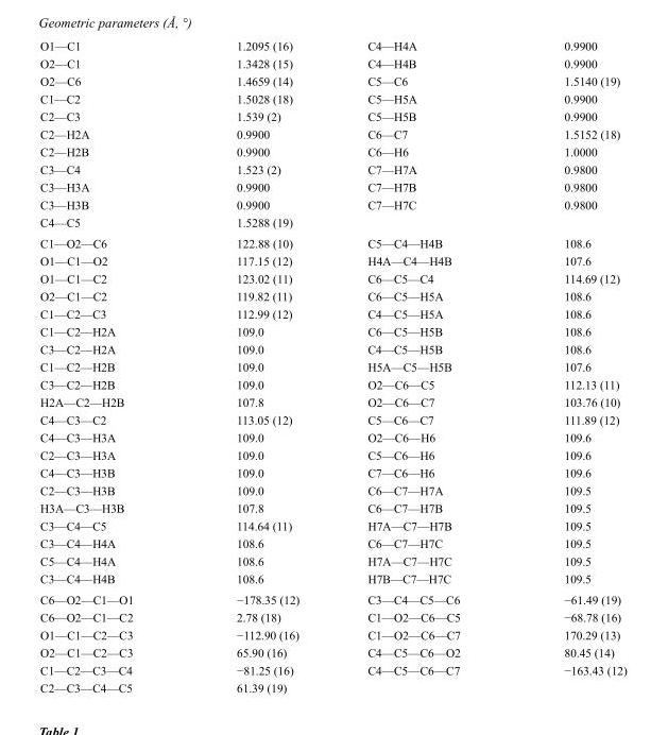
<table><tbody><tr><td>O1—C1</td><td>1.2095 (16)</td><td>C4—H4A</td><td>0.9900</td></tr><tr><td>O2—C1</td><td>1.3428 (15)</td><td>C4—H4B</td><td>0.9900</td></tr><tr><td>O2—C6</td><td>1.4659 (14)</td><td>C5—C6</td><td>1.5140 (19)</td></tr><tr><td>C1—C2</td><td>1.5028 (18)</td><td>C5—H5A</td><td>0.9900</td></tr><tr><td>C2—C3</td><td>1.539 (2)</td><td>C5—H5B</td><td>0.9900</td></tr><tr><td>C2—H2A</td><td>0.9900</td><td>C6—C7</td><td>1.5152 (18)</td></tr><tr><td>C2—H2B</td><td>0.9900</td><td>C6—H6</td><td>1.0000</td></tr><tr><td>C3—C4</td><td>1.523 (2)</td><td>C7—H7A</td><td>0.9800</td></tr><tr><td>C3—H3A</td><td>0.9900</td><td>C7—H7B</td><td>0.9800</td></tr><tr><td>C3—H3B</td><td>0.9900</td><td>C7—H7C</td><td>0.9800</td></tr><tr><td>C4—C5</td><td>1.5288 (19)</td><td></td><td></td></tr><tr><td>C1—O2—C6</td><td>122.88 (10)</td><td>C5—C4—H4B</td><td>108.6</td></tr><tr><td>O1—C1—O2</td><td>117.15 (12)</td><td>H4A—C4—H4B</td><td>107.6</td></tr><tr><td>O1—C1—C2</td><td>123.02 (11)</td><td>C6—C5—C4</td><td>114.69 (12)</td></tr><tr><td>O2—C1—C2</td><td>119.82 (11)</td><td>C6—C5—H5A</td><td>108.6</td></tr><tr><td>C1—C2—C3</td><td>112.99 (12)</td><td>C4—C5—H5A</td><td>108.6</td></tr><tr><td>C1—C2—H2A</td><td>109.0</td><td>C6—C5—H5B</td><td>108.6</td></tr><tr><td>C3—C2—H2A</td><td>109.0</td><td>C4—C5—H5B</td><td>108.6</td></tr><tr><td>C1—C2—H2B</td><td>109.0</td><td>H5A—C5—H5B</td><td>107.6</td></tr><tr><td>C3—C2—H2B</td><td>109.0</td><td>O2—C6—C5</td><td>112.13 (11)</td></tr><tr><td>H2A—C2—H2B</td><td>107.8</td><td>O2—C6—C7</td><td>103.76 (10)</td></tr><tr><td>C4—C3—C2</td><td>113.05 (12)</td><td>C5—C6—C7</td><td>111.89 (12)</td></tr><tr><td>C4—C3—H3A</td><td>109.0</td><td>O2—C6—H6</td><td>109.6</td></tr><tr><td>C2—C3—H3A</td><td>109.0</td><td>C5—C6—H6</td><td>109.6</td></tr><tr><td>C4—C3—H3B</td><td>109.0</td><td>C7—C6—H6</td><td>109.6</td></tr><tr><td>C2—C3—H3B</td><td>109.0</td><td>C6—C7—H7A</td><td>109.5</td></tr><tr><td>H3A—C3—H3B</td><td>107.8</td><td>C6—C7—H7B</td><td>109.5</td></tr><tr><td>C3—C4—C5</td><td>114.64 (11)</td><td>H7A—C7—H7B</td><td>109.5</td></tr><tr><td>C3—C4—H4A</td><td>108.6</td><td>C6—C7—H7C</td><td>109.5</td></tr><tr><td>C5—C4—H4A</td><td>108.6</td><td>H7A—C7—H7C</td><td>109.5</td></tr><tr><td>C3—C4—H4B</td><td>108.6</td><td>H7B—C7—H7C</td><td>109.5</td></tr><tr><td>C6—O2—C1—O1</td><td>−178.35 (12)</td><td>C3—C4—C5—C6</td><td>−61.49 (19)</td></tr><tr><td>C6—O2—C1—C2</td><td>2.78 (18)</td><td>C1—O2—C6—C5</td><td>−68.78 (16)</td></tr><tr><td>O1—C1—C2—C3</td><td>−112.90 (16)</td><td>C1—O2—C6—C7</td><td>170.29 (13)</td></tr><tr><td>O2—C1—C2—C3</td><td>65.90 (16)</td><td>C4—C5—C6—O2</td><td>80.45 (14)</td></tr><tr><td>C1—C2—C3—C4</td><td>−81.25 (16)</td><td>C4—C5—C6—C7</td><td>−163.43 (12)</td></tr><tr><td>C2—C3—C4—C5</td><td>61.39 (19)</td><td></td><td></td></tr></tbody></table>